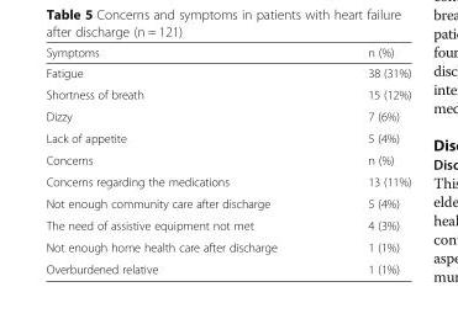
<table><thead><tr><td>Symptoms</td><td>n (%)</td></tr></thead><tbody><tr><td>Fatigue</td><td>38 (31%)</td></tr><tr><td>Shortness of breath</td><td>15 (12%)</td></tr><tr><td>Dizzy</td><td>7 (6%)</td></tr><tr><td>Lack of appetite</td><td>5 (4%)</td></tr><tr><td>Concerns</td><td>n (%)</td></tr><tr><td>Concerns regarding the medications</td><td>13 (11%)</td></tr><tr><td>Not enough community care after discharge</td><td>5 (4%)</td></tr><tr><td>The need of assistive equipment not met</td><td>4 (3%)</td></tr><tr><td>Not enough home health care after discharge</td><td>1 (1%)</td></tr><tr><td>Overburdened relative</td><td>1 (1%)</td></tr></tbody></table>